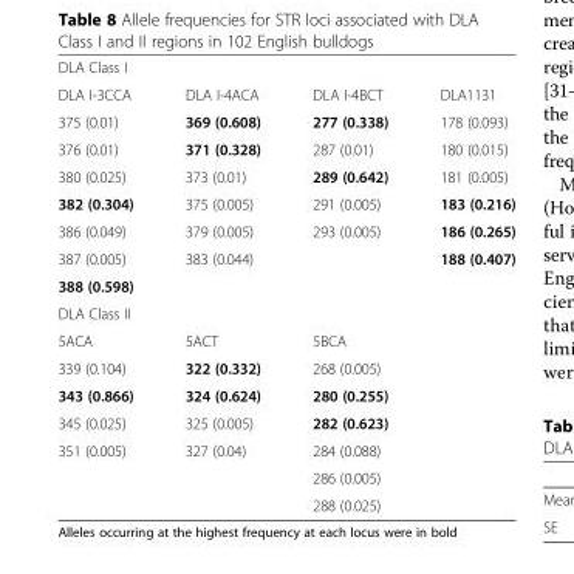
<table><tbody><tr><td colspan="4">DLA Class I</td></tr><tr><td>DLA I-3CCA</td><td>DLA I-4ACA</td><td>DLA I-4BCT</td><td>DLA1131</td></tr><tr><td>375 (0.01)</td><td>369 (0.608)</td><td>277 (0.338)</td><td>178 (0.093)</td></tr><tr><td>376 (0.01)</td><td>371 (0.328)</td><td>287 (0.01)</td><td>180 (0.015)</td></tr><tr><td>380 (0.025)</td><td>373 (0.01)</td><td>289 (0.642)</td><td>181 (0.005)</td></tr><tr><td>382 (0.304)</td><td>375 (0.005)</td><td>291 (0.005)</td><td>183 (0.216)</td></tr><tr><td>386 (0.049)</td><td>379 (0.005)</td><td>293 (0.005)</td><td>186 (0.265)</td></tr><tr><td>387 (0.005)</td><td>383 (0.044)</td><td></td><td>188 (0.407)</td></tr><tr><td colspan="4">388 (0.598)</td></tr><tr><td colspan="4">DLA Class II</td></tr><tr><td>5ACA</td><td>5ACT</td><td colspan="2">5BCA</td></tr><tr><td>339 (0.104)</td><td>322 (0.332)</td><td colspan="2">268 (0.005)</td></tr><tr><td>343 (0.866)</td><td>324 (0.624)</td><td colspan="2">280 (0.255)</td></tr><tr><td>345 (0.025)</td><td>325 (0.005)</td><td colspan="2">282 (0.623)</td></tr><tr><td rowspan="3">351 (0.005)</td><td>327 (0.04)</td><td colspan="2">284 (0.088)</td></tr><tr><td></td><td colspan="2">286 (0.005)</td></tr><tr><td></td><td colspan="2">288 (0.025)</td></tr></tbody></table>